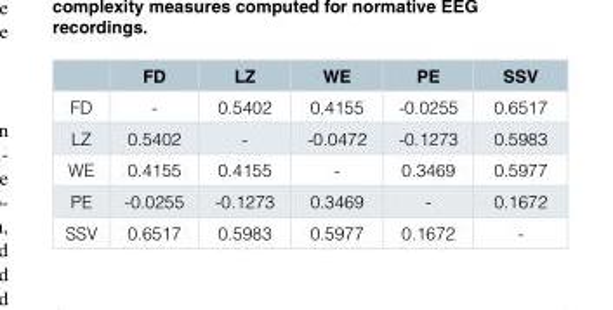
<table><thead><tr><td></td><td>FD</td><td>LZ</td><td>WE</td><td>PE</td><td>SSV</td></tr></thead><tbody><tr><td>FD</td><td>-</td><td>0.5402</td><td>0.4155</td><td>-0.0255</td><td>0.6517</td></tr><tr><td>LZ</td><td>0.5402</td><td>-</td><td>-0.0472</td><td>-0.1273</td><td>0.5983</td></tr><tr><td>WE</td><td>0.4155</td><td>0.4155</td><td>-</td><td>0.3469</td><td>0.5977</td></tr><tr><td>PE</td><td>-0.0255</td><td>-0.1273</td><td>0.3469</td><td>-</td><td>0.1672</td></tr><tr><td>SSV</td><td>0.6517</td><td>0.5983</td><td>0.5977</td><td>0.1672</td><td>-</td></tr></tbody></table>